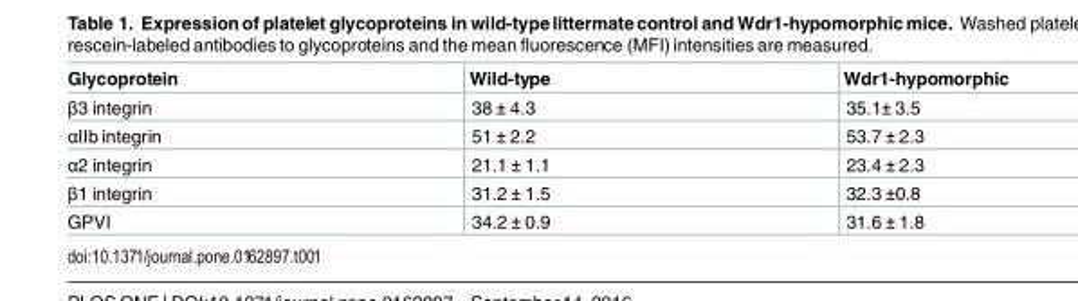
<table><thead><tr><td>Glycoprotein</td><td>Wild-type</td><td>Wdr1-hypomorphic</td></tr></thead><tbody><tr><td>β3 integrin</td><td>38 ± 4.3</td><td>35.1± 3.5</td></tr><tr><td>αIIb integrin</td><td>51 ± 2.2</td><td>53.7 ± 2.3</td></tr><tr><td>α2 integrin</td><td>21.1 ± 1.1</td><td>23.4 ± 2.3</td></tr><tr><td>β1 integrin</td><td>31.2 ± 1.5</td><td>32.3 ±0.8</td></tr><tr><td>GPVI</td><td>34.2 ± 0.9</td><td>31.6 ± 1.8</td></tr></tbody></table>